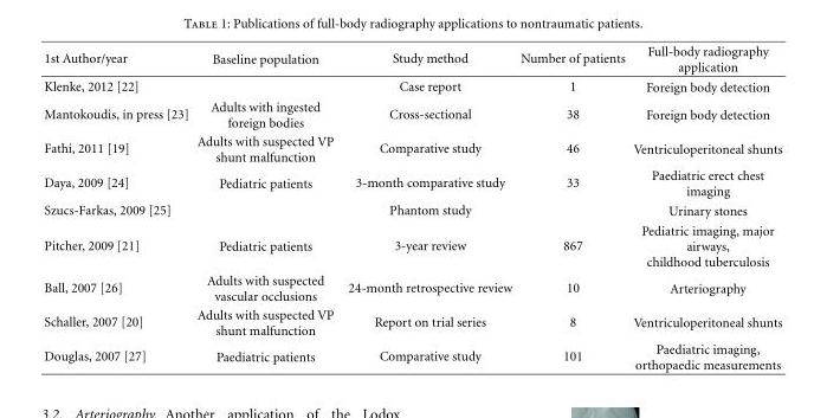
<table><thead><tr><td>1st Author/year</td><td>Baseline population</td><td>Study method</td><td>Number of patients</td><td>Full-body radiography application</td></tr></thead><tbody><tr><td>Klenke, 2012 [22]</td><td></td><td>Case report</td><td>1</td><td>Foreign body detection</td></tr><tr><td>Mantokoudis, in press [23]</td><td>Adults with ingested foreign bodies</td><td>Cross-sectional</td><td>38</td><td>Foreign body detection</td></tr><tr><td>Fathi, 2011 [19]</td><td>Adults with suspected VP shunt malfunction</td><td>Comparative study</td><td>46</td><td>Ventriculoperitoneal shunts</td></tr><tr><td>Daya, 2009 [24]</td><td>Pediatric patients</td><td>3-month comparative study</td><td>33</td><td>Paediatric erect chest imaging</td></tr><tr><td>Szucs-Farkas, 2009 [25]</td><td></td><td>Phantom study</td><td></td><td>Urinary stones</td></tr><tr><td>Pitcher, 2009 [21]</td><td>Pediatric patients</td><td>3-year review</td><td>867</td><td>Pediatric imaging, major airways, childhood tuberculosis</td></tr><tr><td>Ball, 2007 [26]</td><td>Adults with suspected vascular occlusions</td><td>24-month retrospective review</td><td>10</td><td>Arteriography</td></tr><tr><td>Schaller, 2007 [20]</td><td>Adults with suspected VP shunt malfunction</td><td>Report on trial series</td><td>8</td><td>Ventriculoperitoneal shunts</td></tr><tr><td>Douglas, 2007 [27]</td><td>Paediatric patients</td><td>Comparative study</td><td>101</td><td>Paediatric imaging, orthopaedic measurements</td></tr></tbody></table>